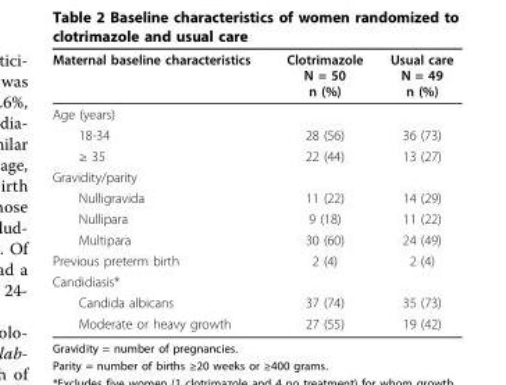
<table><thead><tr><td>Maternal baseline characteristics</td><td>Clotrimazole N = 50 n (%)</td><td>Usual care N = 49 n (%)</td></tr></thead><tbody><tr><td colspan="3">Age (years)</td></tr><tr><td>18-34</td><td>28 (56)</td><td>36 (73)</td></tr><tr><td>≥ 35</td><td>22 (44)</td><td>13 (27)</td></tr><tr><td colspan="3">Gravidity/parity</td></tr><tr><td>Nulligravida</td><td>11 (22)</td><td>14 (29)</td></tr><tr><td>Nullipara</td><td>9 (18)</td><td>11 (22)</td></tr><tr><td>Multipara</td><td>30 (60)</td><td>24 (49)</td></tr><tr><td>Previous preterm birth</td><td>2 (4)</td><td>2 (4)</td></tr><tr><td colspan="3">Candidiasis*</td></tr><tr><td>Candida albicans</td><td>37 (74)</td><td>35 (73)</td></tr><tr><td>Moderate or heavy growth</td><td>27 (55)</td><td>19 (42)</td></tr></tbody></table>